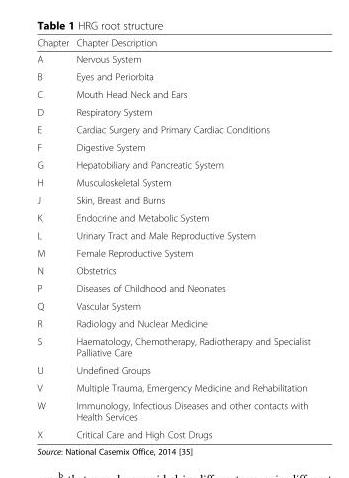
<table><thead><tr><td>Chapter</td><td>Chapter Description</td></tr></thead><tbody><tr><td>A</td><td>Nervous System</td></tr><tr><td>B</td><td>Eyes and Periorbita</td></tr><tr><td>C</td><td>Mouth Head Neck and Ears</td></tr><tr><td>D</td><td>Respiratory System</td></tr><tr><td>E</td><td>Cardiac Surgery and Primary Cardiac Conditions</td></tr><tr><td>F</td><td>Digestive System</td></tr><tr><td>G</td><td>Hepatobiliary and Pancreatic System</td></tr><tr><td>H</td><td>Musculoskeletal System</td></tr><tr><td>J</td><td>Skin, Breast and Burns</td></tr><tr><td>K</td><td>Endocrine and Metabolic System</td></tr><tr><td>L</td><td>Urinary Tract and Male Reproductive System</td></tr><tr><td>M</td><td>Female Reproductive System</td></tr><tr><td>N</td><td>Obstetrics</td></tr><tr><td>P</td><td>Diseases of Childhood and Neonates</td></tr><tr><td>Q</td><td>Vascular System</td></tr><tr><td>R</td><td>Radiology and Nuclear Medicine</td></tr><tr><td>S</td><td>Haematology, Chemotherapy, Radiotherapy and Specialist Palliative Care</td></tr><tr><td>U</td><td>Undefined Groups</td></tr><tr><td>V</td><td>Multiple Trauma, Emergency Medicine and Rehabilitation</td></tr><tr><td>W</td><td>Immunology, Infectious Diseases and other contacts with Health Services</td></tr><tr><td>X</td><td>Critical Care and High Cost Drugs</td></tr></tbody></table>